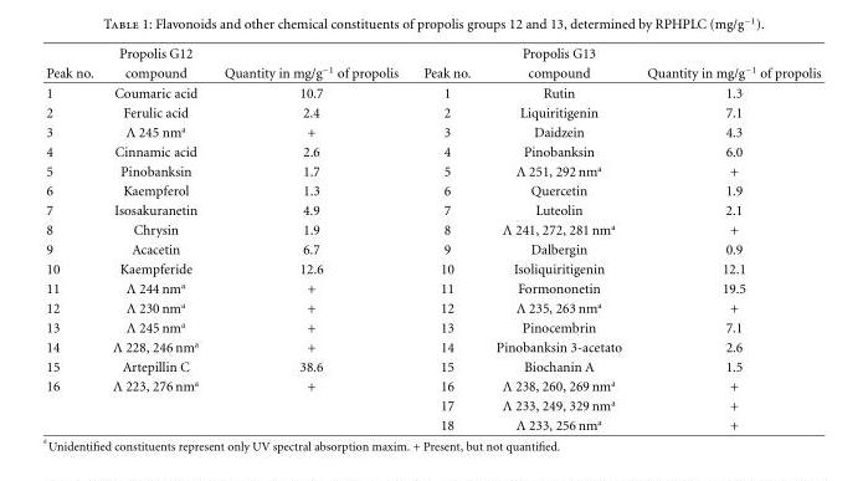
<table><thead><tr><td rowspan="2">Peak no.</td><td rowspan="2">Propolis G12 compound</td><td rowspan="2">Quantity in mg/g<sup>−1</sup> of propolis</td><td rowspan="2">Peak no.</td><td rowspan="2">Propolis G13 compound</td><td rowspan="2">Quantity in mg/g<sup>−1</sup> of propolis</td></tr><tr></tr></thead><tbody><tr><td>1</td><td>Coumaric acid</td><td>10.7</td><td>1</td><td>Rutin</td><td>1.3</td></tr><tr><td>2</td><td>Ferulic acid</td><td>2.4</td><td>2</td><td>Liquiritigenin</td><td>7.1</td></tr><tr><td>3</td><td>Λ 245 nm<sup>a</sup></td><td>+</td><td>3</td><td>Daidzein</td><td>4.3</td></tr><tr><td>4</td><td>Cinnamic acid</td><td>2.6</td><td>4</td><td>Pinobanksin</td><td>6.0</td></tr><tr><td>5</td><td>Pinobanksin</td><td>1.7</td><td>5</td><td>Λ 251, 292 nm<sup>a</sup></td><td>+</td></tr><tr><td>6</td><td>Kaempferol</td><td>1.3</td><td>6</td><td>Quercetin</td><td>1.9</td></tr><tr><td>7</td><td>Isosakuranetin</td><td>4.9</td><td>7</td><td>Luteolin</td><td>2.1</td></tr><tr><td>8</td><td>Chrysin</td><td>1.9</td><td>8</td><td>Λ 241, 272, 281 nm<sup>a</sup></td><td>+</td></tr><tr><td>9</td><td>Acacetin</td><td>6.7</td><td>9</td><td>Dalbergin</td><td>0.9</td></tr><tr><td>10</td><td>Kaempferide</td><td>12.6</td><td>10</td><td>Isoliquiritigenin</td><td>12.1</td></tr><tr><td>11</td><td>Λ 244 nm<sup>a</sup></td><td>+</td><td>11</td><td>Formononetin</td><td>19.5</td></tr><tr><td>12</td><td>Λ 230 nm<sup>a</sup></td><td>+</td><td>12</td><td>Λ 235, 263 nm<sup>a</sup></td><td>+</td></tr><tr><td>13</td><td>Λ 245 nm<sup>a</sup></td><td>+</td><td>13</td><td>Pinocembrin</td><td>7.1</td></tr><tr><td>14</td><td>Λ 228, 246 nm<sup>a</sup></td><td>+</td><td>14</td><td>Pinobanksin 3-acetato</td><td>2.6</td></tr><tr><td>15</td><td>Artepillin C</td><td>38.6</td><td>15</td><td>Biochanin A</td><td>1.5</td></tr><tr><td rowspan="3">16</td><td>Λ 223, 276 nm<sup>a</sup></td><td>+</td><td>16</td><td>Λ 238, 260, 269 nm<sup>a</sup></td><td>+</td></tr><tr><td></td><td></td><td>17</td><td>Λ 233, 249, 329 nm<sup>a</sup></td><td>+</td></tr><tr><td></td><td></td><td>18</td><td>Λ 233, 256 nm<sup>a</sup></td><td>+</td></tr></tbody></table>